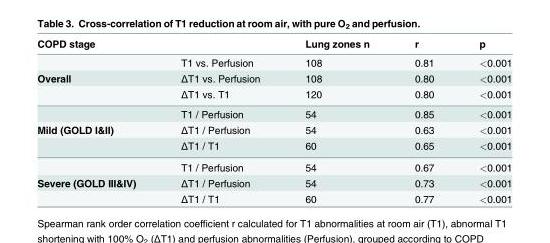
<table><thead><tr><td>COPD stage</td><td></td><td>Lung zones n</td><td>r</td><td>p</td></tr></thead><tbody><tr><td></td><td>T1 vs. Perfusion</td><td>108</td><td>0.81</td><td>&lt;0.001</td></tr><tr><td rowspan="3">Overall</td><td>ΔT1 vs. Perfusion</td><td>108</td><td>0.80</td><td>&lt;0.001</td></tr><tr><td>ΔT1 vs. T1</td><td>120</td><td>0.80</td><td>&lt;0.001</td></tr><tr><td>T1 / Perfusion</td><td>54</td><td>0.85</td><td>&lt;0.001</td></tr><tr><td rowspan="3">Mild (GOLD I&amp;II)</td><td>ΔT1 / Perfusion</td><td>54</td><td>0.63</td><td>&lt;0.001</td></tr><tr><td>ΔT1 / T1</td><td>60</td><td>0.65</td><td>&lt;0.001</td></tr><tr><td>T1 / Perfusion</td><td>54</td><td>0.67</td><td>&lt;0.001</td></tr><tr><td rowspan="2">Severe (GOLD III&amp;IV)</td><td>ΔT1 / Perfusion</td><td>54</td><td>0.73</td><td>&lt;0.001</td></tr><tr><td>ΔT1 / T1</td><td>60</td><td>0.77</td><td>&lt;0.001</td></tr></tbody></table>